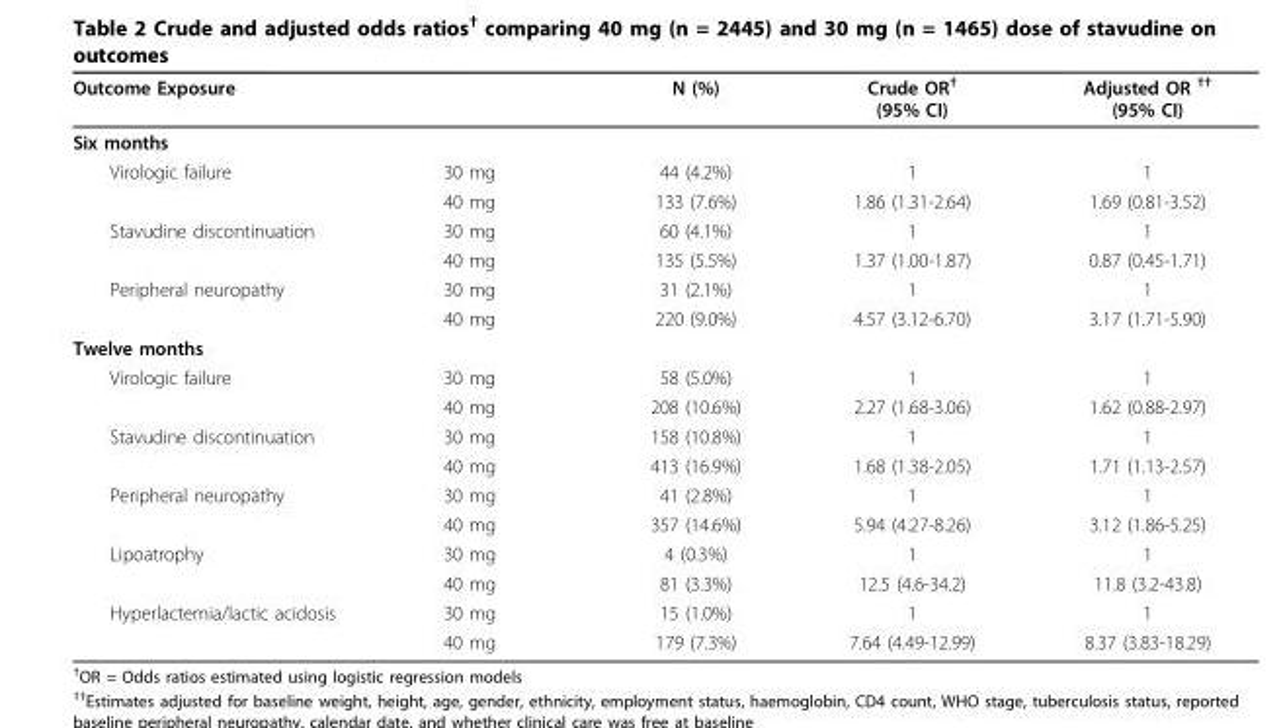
<table><thead><tr><td colspan="2">Outcome Exposure</td><td rowspan="2">N (%)</td><td rowspan="2">Crude OR<sup>†</sup> (95% CI)</td><td rowspan="2">Adjusted OR <sup>††</sup> (95% CI)</td></tr><tr><td>Six months</td><td></td></tr></thead><tbody><tr><td rowspan="2">Virologic failure</td><td>30 mg</td><td>44 (4.2%)</td><td>1</td><td>1</td></tr><tr><td>40 mg</td><td>133 (7.6%)</td><td>1.86 (1.31-2.64)</td><td>1.69 (0.81-3.52)</td></tr><tr><td rowspan="2">Stavudine discontinuation</td><td>30 mg</td><td>60 (4.1%)</td><td>1</td><td>1</td></tr><tr><td>40 mg</td><td>135 (5.5%)</td><td>1.37 (1.00-1.87)</td><td>0.87 (0.45-1.71)</td></tr><tr><td rowspan="2">Peripheral neuropathy</td><td>30 mg</td><td>31 (2.1%)</td><td>1</td><td>1</td></tr><tr><td>40 mg</td><td>220 (9.0%)</td><td>4.57 (3.12-6.70)</td><td>3.17 (1.71-5.90)</td></tr><tr><td colspan="5">Twelve months</td></tr><tr><td rowspan="2">Virologic failure</td><td>30 mg</td><td>58 (5.0%)</td><td>1</td><td>1</td></tr><tr><td>40 mg</td><td>208 (10.6%)</td><td>2.27 (1.68-3.06)</td><td>1.62 (0.88-2.97)</td></tr><tr><td rowspan="2">Stavudine discontinuation</td><td>30 mg</td><td>158 (10.8%)</td><td>1</td><td>1</td></tr><tr><td>40 mg</td><td>413 (16.9%)</td><td>1.68 (1.38-2.05)</td><td>1.71 (1.13-2.57)</td></tr><tr><td rowspan="2">Peripheral neuropathy</td><td>30 mg</td><td>41 (2.8%)</td><td>1</td><td>1</td></tr><tr><td>40 mg</td><td>357 (14.6%)</td><td>5.94 (4.27-8.26)</td><td>3.12 (1.86-5.25)</td></tr><tr><td rowspan="2">Lipoatrophy</td><td>30 mg</td><td>4 (0.3%)</td><td>1</td><td>1</td></tr><tr><td>40 mg</td><td>81 (3.3%)</td><td>12.5 (4.6-34.2)</td><td>11.8 (3.2-43.8)</td></tr><tr><td rowspan="2">Hyperlactemia/lactic acidosis</td><td>30 mg</td><td>15 (1.0%)</td><td>1</td><td>1</td></tr><tr><td>40 mg</td><td>179 (7.3%)</td><td>7.64 (4.49-12.99)</td><td>8.37 (3.83-18.29)</td></tr></tbody></table>